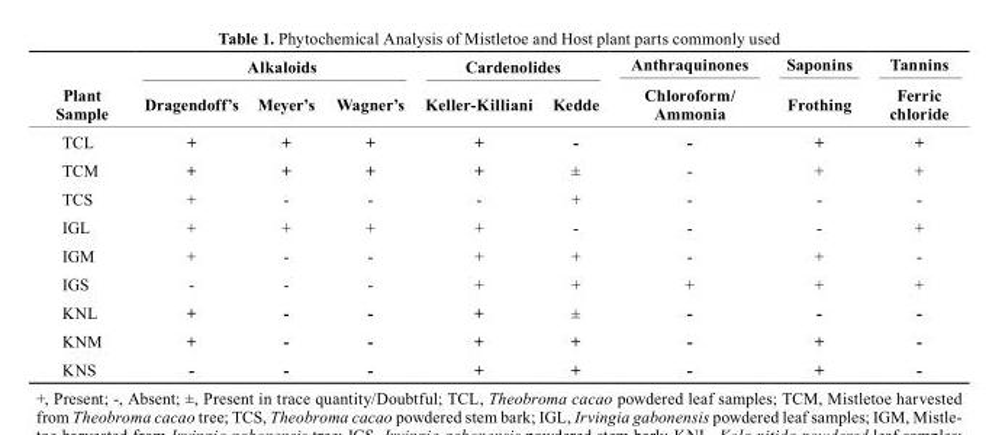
<table><thead><tr><td rowspan="2">Plant Sample</td><td colspan="3">Alkaloids</td><td colspan="2">Cardenolides</td><td rowspan="2">Anthraquinones Chloroform/ Ammonia</td><td rowspan="2">Saponins Frothing</td><td rowspan="2">Tannins Ferric chloride</td></tr><tr><td>Dragendoff’s</td><td>Meyer’s</td><td>Wagner’s</td><td>Keller-Killiani</td><td>Kedde</td></tr></thead><tbody><tr><td>TCL</td><td>+</td><td>+</td><td>+</td><td>+</td><td>-</td><td>-</td><td>+</td><td>+</td></tr><tr><td>TCM</td><td>+</td><td>+</td><td>+</td><td>+</td><td>±</td><td>-</td><td>+</td><td>+</td></tr><tr><td>TCS</td><td>+</td><td>-</td><td>-</td><td>-</td><td>+</td><td>-</td><td>-</td><td>-</td></tr><tr><td>IGL</td><td>+</td><td>+</td><td>+</td><td>+</td><td>-</td><td>-</td><td>-</td><td>+</td></tr><tr><td>IGM</td><td>+</td><td>-</td><td>-</td><td>+</td><td>+</td><td>-</td><td>+</td><td>-</td></tr><tr><td>IGS</td><td>-</td><td>-</td><td>-</td><td>+</td><td>+</td><td>+</td><td>+</td><td>+</td></tr><tr><td>KNL</td><td>+</td><td>-</td><td>-</td><td>+</td><td>±</td><td>-</td><td>-</td><td>-</td></tr><tr><td>KNM</td><td>+</td><td>-</td><td>-</td><td>+</td><td>+</td><td>-</td><td>+</td><td>-</td></tr><tr><td>KNS</td><td>-</td><td>-</td><td>-</td><td>+</td><td>+</td><td>-</td><td>+</td><td>-</td></tr></tbody></table>